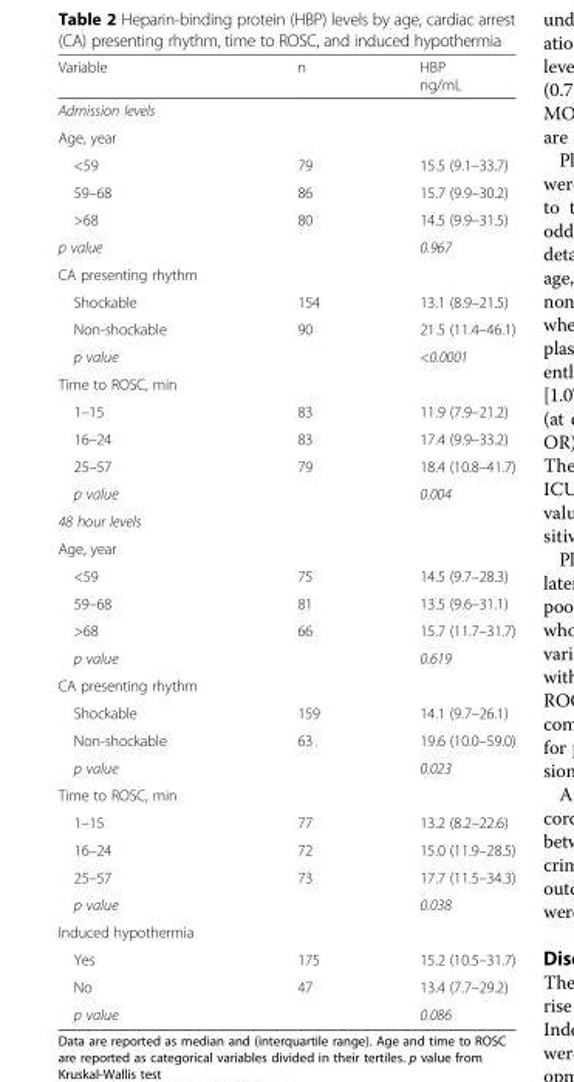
<table><thead><tr><td>Variable</td><td>n</td><td>HBP ng/mL</td></tr></thead><tbody><tr><td colspan="3">Admission levels</td></tr><tr><td colspan="3">Age, year</td></tr><tr><td>&lt;59</td><td>79</td><td>15.5 (9.1–33.7)</td></tr><tr><td>59–68</td><td>86</td><td>15.7 (9.9–30.2)</td></tr><tr><td>&gt;68</td><td>80</td><td>14.5 (9.9–31.5)</td></tr><tr><td>p value</td><td></td><td>0.967</td></tr><tr><td colspan="3">CA presenting rhythm</td></tr><tr><td>Shockable</td><td>154</td><td>13.1 (8.9–21.5)</td></tr><tr><td>Non-shockable</td><td>90</td><td>21.5 (11.4–46.1)</td></tr><tr><td>p value</td><td></td><td>&lt;0.0001</td></tr><tr><td colspan="3">Time to ROSC, min</td></tr><tr><td>1–15</td><td>83</td><td>11.9 (7.9–21.2)</td></tr><tr><td>16–24</td><td>83</td><td>17.4 (9.9–33.2)</td></tr><tr><td>25–57</td><td>79</td><td>18.4 (10.8–41.7)</td></tr><tr><td>p value</td><td></td><td>0.004</td></tr><tr><td colspan="3">48 hour levels</td></tr><tr><td colspan="3">Age, year</td></tr><tr><td>&lt;59</td><td>75</td><td>14.5 (9.7–28.3)</td></tr><tr><td>59–68</td><td>81</td><td>13.5 (9.6–31.1)</td></tr><tr><td>&gt;68</td><td>66</td><td>15.7 (11.7–31.7)</td></tr><tr><td>p value</td><td></td><td>0.619</td></tr><tr><td colspan="3">CA presenting rhythm</td></tr><tr><td>Shockable</td><td>159</td><td>14.1 (9.7–26.1)</td></tr><tr><td>Non-shockable</td><td>63</td><td>19.6 (10.0–59.0)</td></tr><tr><td>p value</td><td></td><td>0.023</td></tr><tr><td colspan="3">Time to ROSC, min</td></tr><tr><td>1–15</td><td>77</td><td>13.2 (8.2–22.6)</td></tr><tr><td>16–24</td><td>72</td><td>15.0 (11.9–28.5)</td></tr><tr><td>25–57</td><td>73</td><td>17.7 (11.5–34.3)</td></tr><tr><td>p value</td><td></td><td>0.038</td></tr><tr><td colspan="3">Induced hypothermia</td></tr><tr><td>Yes</td><td>175</td><td>15.2 (10.5–31.7)</td></tr><tr><td>No</td><td>47</td><td>13.4 (7.7–29.2)</td></tr><tr><td>p value</td><td></td><td>0.086</td></tr></tbody></table>